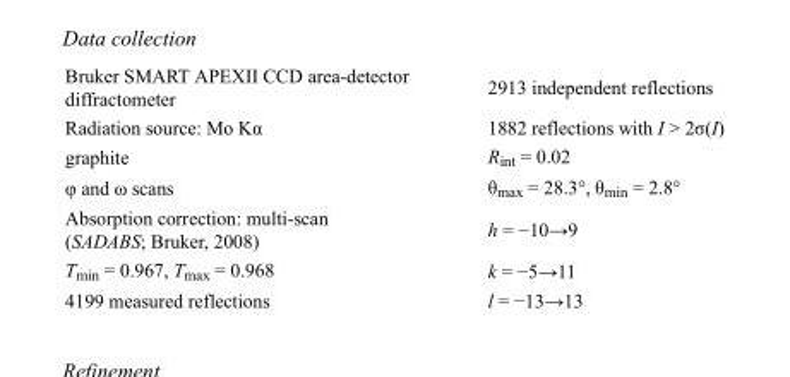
<table><tbody><tr><td>Bruker SMART APEXII CCD area-detector diffractometer</td><td>2913 independent reflections</td></tr><tr><td>Radiation source: Mo Kα</td><td>1882 reflections with I &gt; 2σ(I)</td></tr><tr><td>graphite</td><td>R<sub>int</sub> = 0.02</td></tr><tr><td>φ and ω scans</td><td>θ<sub>max</sub> = 28.3°, θ<sub>min</sub> = 2.8°</td></tr><tr><td>Absorption correction: multi-scan (SADABS; Bruker, 2008)</td><td>h = −10→9</td></tr><tr><td>T<sub>min</sub> = 0.967, T<sub>max</sub> = 0.968</td><td>k = −5→11</td></tr><tr><td>4199 measured reflections</td><td>l = −13→13</td></tr></tbody></table>